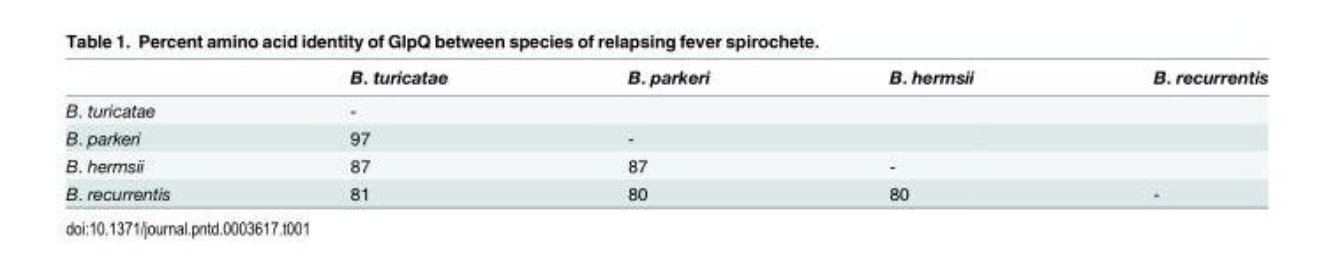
<table><thead><tr><td></td><td>B. turicatae</td><td>B. parkeri</td><td>B. hermsii</td><td>B. recurrentis</td></tr></thead><tbody><tr><td>B. turicatae</td><td>-</td><td></td><td></td><td></td></tr><tr><td>B. parkeri</td><td>97</td><td>-</td><td></td><td></td></tr><tr><td>B. hermsii</td><td>87</td><td>87</td><td>-</td><td></td></tr><tr><td>B. recurrentis</td><td>81</td><td>80</td><td>80</td><td>-</td></tr></tbody></table>